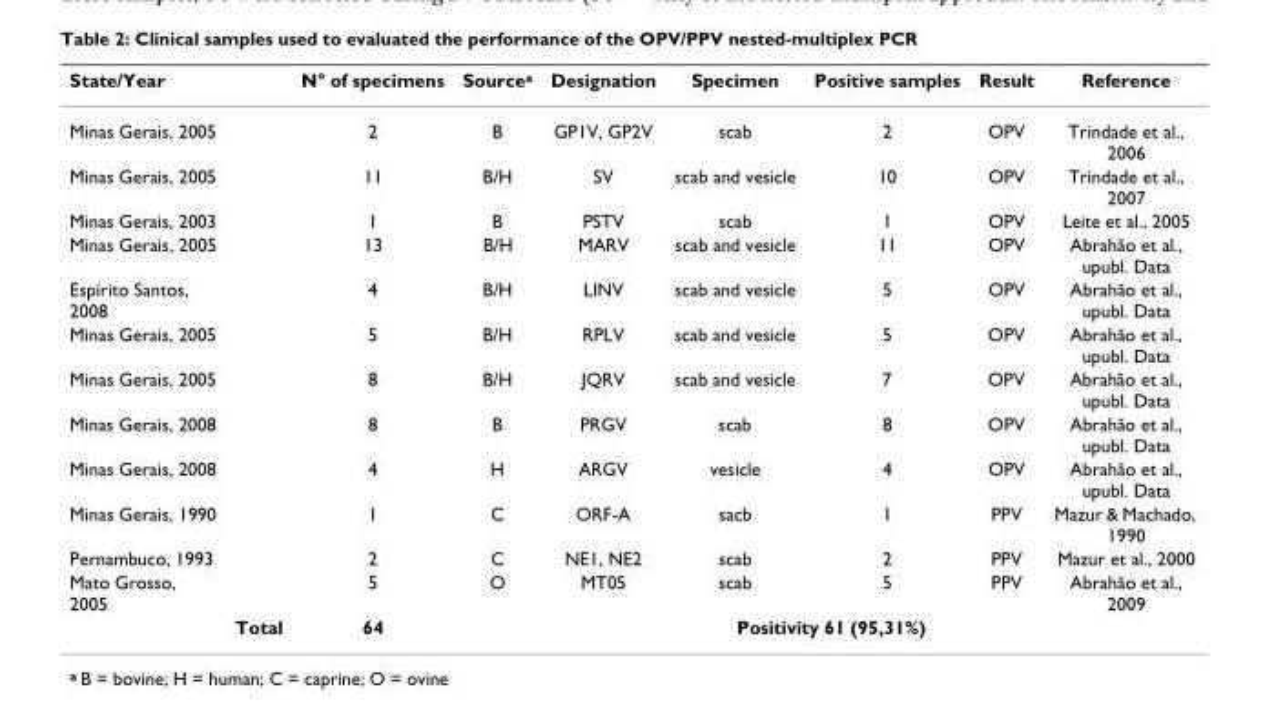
<table><thead><tr><td>State/Year</td><td></td><td>N° of specimens</td><td>Source<sup>a</sup></td><td>Designation</td><td>Specimen</td><td>Positive samples</td><td>Result</td><td>Reference</td></tr></thead><tbody><tr><td>Minas Gerais, 2005</td><td></td><td>2</td><td>B</td><td>GP1V, GP2V</td><td>scab</td><td>2</td><td>OPV</td><td>Trindade et al., 2006</td></tr><tr><td>Minas Gerais, 2005</td><td></td><td>11</td><td>B/H</td><td>SV</td><td>scab and vesicle</td><td>10</td><td>OPV</td><td>Trindade et al., 2007</td></tr><tr><td>Minas Gerais, 2003</td><td></td><td>1</td><td>B</td><td>PSTV</td><td>scab</td><td>1</td><td>OPV</td><td>Leite et al., 2005</td></tr><tr><td>Minas Gerais, 2005</td><td></td><td>13</td><td>B/H</td><td>MARV</td><td>scab and vesicle</td><td>11</td><td>OPV</td><td>Abrahão et al., upubl. Data</td></tr><tr><td>Espírito Santos, 2008</td><td></td><td>4</td><td>B/H</td><td>LINV</td><td>scab and vesicle</td><td>5</td><td>OPV</td><td>Abrahão et al., upubl. Data</td></tr><tr><td>Minas Gerais, 2005</td><td></td><td>5</td><td>B/H</td><td>RPLV</td><td>scab and vesicle</td><td>5</td><td>OPV</td><td>Abrahão et al., upubl. Data</td></tr><tr><td>Minas Gerais, 2005</td><td></td><td>8</td><td>B/H</td><td>JQRV</td><td>scab and vesicle</td><td>7</td><td>OPV</td><td>Abrahão et al., upubl. Data</td></tr><tr><td>Minas Gerais, 2008</td><td></td><td>8</td><td>B</td><td>PRGV</td><td>scab</td><td>8</td><td>OPV</td><td>Abrahão et al., upubl. Data</td></tr><tr><td>Minas Gerais, 2008</td><td></td><td>4</td><td>H</td><td>ARGV</td><td>vesicle</td><td>4</td><td>OPV</td><td>Abrahão et al., upubl. Data</td></tr><tr><td>Minas Gerais, 1990</td><td></td><td>1</td><td>C</td><td>ORF-A</td><td>sacb</td><td>1</td><td>PPV</td><td>Mazur &amp; Machado, 1990</td></tr><tr><td>Pernambuco, 1993</td><td></td><td>2</td><td>C</td><td>NE1, NE2</td><td>scab</td><td>2</td><td>PPV</td><td>Mazur et al., 2000</td></tr><tr><td rowspan="2">Mato Grosso, 2005</td><td></td><td>5</td><td>O</td><td>MT05</td><td>scab</td><td>5</td><td>PPV</td><td>Abrahão et al., 2009</td></tr><tr><td>Total</td><td>64</td><td colspan="6">Positivity 61 (95,31%)</td></tr></tbody></table>